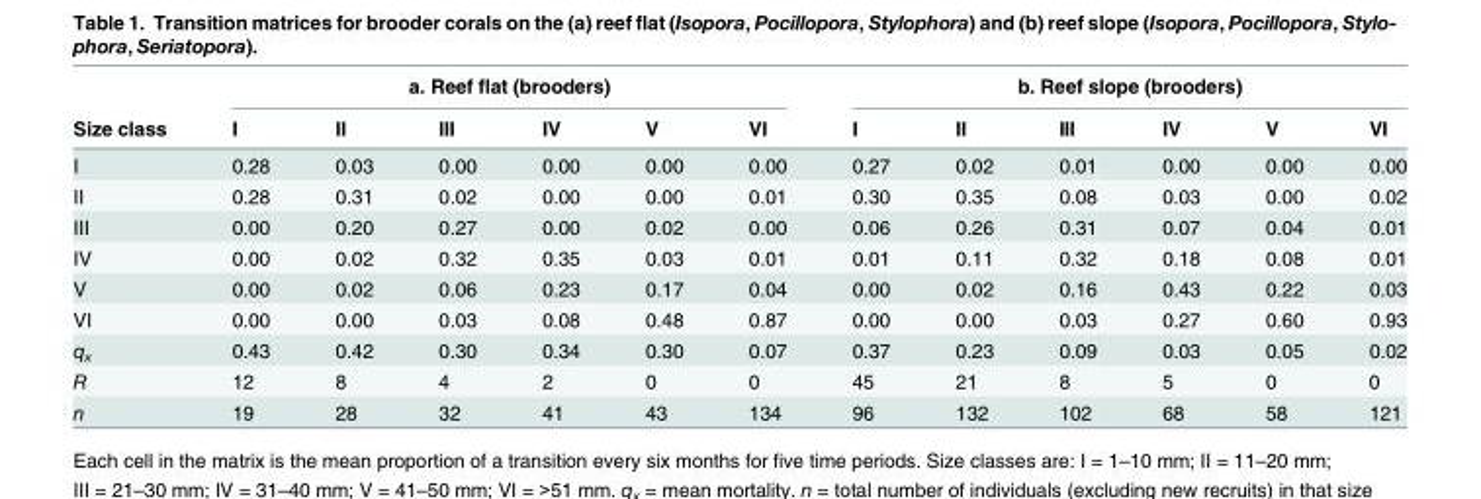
<table><thead><tr><td rowspan="2">Size class</td><td colspan="6">a. Reef flat (brooders)</td><td colspan="6">b. Reef slope (brooders)</td></tr><tr><td>I</td><td>II</td><td>III</td><td>IV</td><td>V</td><td>VI</td><td>I</td><td>II</td><td>III</td><td>IV</td><td>V</td><td>VI</td></tr></thead><tbody><tr><td>I</td><td>0.28</td><td>0.03</td><td>0.00</td><td>0.00</td><td>0.00</td><td>0.00</td><td>0.27</td><td>0.02</td><td>0.01</td><td>0.00</td><td>0.00</td><td>0.00</td></tr><tr><td>II</td><td>0.28</td><td>0.31</td><td>0.02</td><td>0.00</td><td>0.00</td><td>0.01</td><td>0.30</td><td>0.35</td><td>0.08</td><td>0.03</td><td>0.00</td><td>0.02</td></tr><tr><td>III</td><td>0.00</td><td>0.20</td><td>0.27</td><td>0.00</td><td>0.02</td><td>0.00</td><td>0.06</td><td>0.26</td><td>0.31</td><td>0.07</td><td>0.04</td><td>0.01</td></tr><tr><td>IV</td><td>0.00</td><td>0.02</td><td>0.32</td><td>0.35</td><td>0.03</td><td>0.01</td><td>0.01</td><td>0.11</td><td>0.32</td><td>0.18</td><td>0.08</td><td>0.01</td></tr><tr><td>V</td><td>0.00</td><td>0.02</td><td>0.06</td><td>0.23</td><td>0.17</td><td>0.04</td><td>0.00</td><td>0.02</td><td>0.16</td><td>0.43</td><td>0.22</td><td>0.03</td></tr><tr><td>VI</td><td>0.00</td><td>0.00</td><td>0.03</td><td>0.08</td><td>0.48</td><td>0.87</td><td>0.00</td><td>0.00</td><td>0.03</td><td>0.27</td><td>0.60</td><td>0.93</td></tr><tr><td>q<sub>x</sub></td><td>0.43</td><td>0.42</td><td>0.30</td><td>0.34</td><td>0.30</td><td>0.07</td><td>0.37</td><td>0.23</td><td>0.09</td><td>0.03</td><td>0.05</td><td>0.02</td></tr><tr><td>R</td><td>12</td><td>8</td><td>4</td><td>2</td><td>0</td><td>0</td><td>45</td><td>21</td><td>8</td><td>5</td><td>0</td><td>0</td></tr><tr><td>n</td><td>19</td><td>28</td><td>32</td><td>41</td><td>43</td><td>134</td><td>96</td><td>132</td><td>102</td><td>68</td><td>58</td><td>121</td></tr></tbody></table>